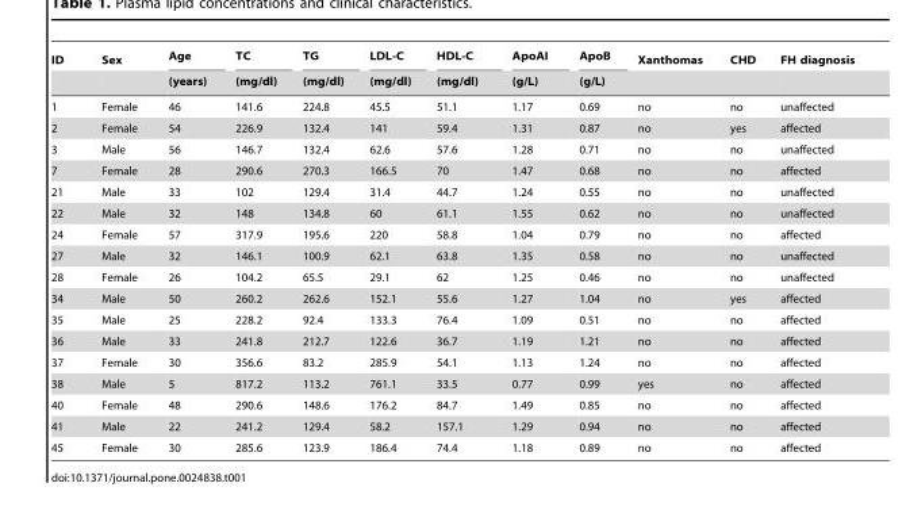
<table><thead><tr><td rowspan="2">ID</td><td rowspan="2">Sex</td><td rowspan="2">Age (years)</td><td rowspan="2">TC (mg/dl)</td><td rowspan="2">TG (mg/dl)</td><td rowspan="2">LDL-C (mg/dl)</td><td rowspan="2">HDL-C (mg/dl)</td><td rowspan="2">ApoAI (g/L)</td><td rowspan="2">ApoB (g/L)</td><td rowspan="2">Xanthomas</td><td rowspan="2">CHD</td><td rowspan="2">FH diagnosis</td></tr><tr></tr></thead><tbody><tr><td>1</td><td>Female</td><td>46</td><td>141.6</td><td>224.8</td><td>45.5</td><td>51.1</td><td>1.17</td><td>0.69</td><td>no</td><td>no</td><td>unaffected</td></tr><tr><td>2</td><td>Female</td><td>54</td><td>226.9</td><td>132.4</td><td>141</td><td>59.4</td><td>1.31</td><td>0.87</td><td>no</td><td>yes</td><td>affected</td></tr><tr><td>3</td><td>Male</td><td>56</td><td>146.7</td><td>132.4</td><td>62.6</td><td>57.6</td><td>1.28</td><td>0.71</td><td>no</td><td>no</td><td>unaffected</td></tr><tr><td>7</td><td>Female</td><td>28</td><td>290.6</td><td>270.3</td><td>166.5</td><td>70</td><td>1.47</td><td>0.68</td><td>no</td><td>no</td><td>affected</td></tr><tr><td>21</td><td>Male</td><td>33</td><td>102</td><td>129.4</td><td>31.4</td><td>44.7</td><td>1.24</td><td>0.55</td><td>no</td><td>no</td><td>unaffected</td></tr><tr><td>22</td><td>Male</td><td>32</td><td>148</td><td>134.8</td><td>60</td><td>61.1</td><td>1.55</td><td>0.62</td><td>no</td><td>no</td><td>unaffected</td></tr><tr><td>24</td><td>Female</td><td>57</td><td>317.9</td><td>195.6</td><td>220</td><td>58.8</td><td>1.04</td><td>0.79</td><td>no</td><td>no</td><td>affected</td></tr><tr><td>27</td><td>Male</td><td>32</td><td>146.1</td><td>100.9</td><td>62.1</td><td>63.8</td><td>1.35</td><td>0.58</td><td>no</td><td>no</td><td>unaffected</td></tr><tr><td>28</td><td>Female</td><td>26</td><td>104.2</td><td>65.5</td><td>29.1</td><td>62</td><td>1.25</td><td>0.46</td><td>no</td><td>no</td><td>unaffected</td></tr><tr><td>34</td><td>Male</td><td>50</td><td>260.2</td><td>262.6</td><td>152.1</td><td>55.6</td><td>1.27</td><td>1.04</td><td>no</td><td>yes</td><td>affected</td></tr><tr><td>35</td><td>Male</td><td>25</td><td>228.2</td><td>92.4</td><td>133.3</td><td>76.4</td><td>1.09</td><td>0.51</td><td>no</td><td>no</td><td>affected</td></tr><tr><td>36</td><td>Male</td><td>33</td><td>241.8</td><td>212.7</td><td>122.6</td><td>36.7</td><td>1.19</td><td>1.21</td><td>no</td><td>no</td><td>affected</td></tr><tr><td>37</td><td>Female</td><td>30</td><td>356.6</td><td>83.2</td><td>285.9</td><td>54.1</td><td>1.13</td><td>1.24</td><td>no</td><td>no</td><td>affected</td></tr><tr><td>38</td><td>Male</td><td>5</td><td>817.2</td><td>113.2</td><td>761.1</td><td>33.5</td><td>0.77</td><td>0.99</td><td>yes</td><td>no</td><td>affected</td></tr><tr><td>40</td><td>Female</td><td>48</td><td>290.6</td><td>148.6</td><td>176.2</td><td>84.7</td><td>1.49</td><td>0.85</td><td>no</td><td>no</td><td>affected</td></tr><tr><td>41</td><td>Male</td><td>22</td><td>241.2</td><td>129.4</td><td>58.2</td><td>157.1</td><td>1.29</td><td>0.94</td><td>no</td><td>no</td><td>affected</td></tr><tr><td>45</td><td>Female</td><td>30</td><td>285.6</td><td>123.9</td><td>186.4</td><td>74.4</td><td>1.18</td><td>0.89</td><td>no</td><td>no</td><td>affected</td></tr></tbody></table>